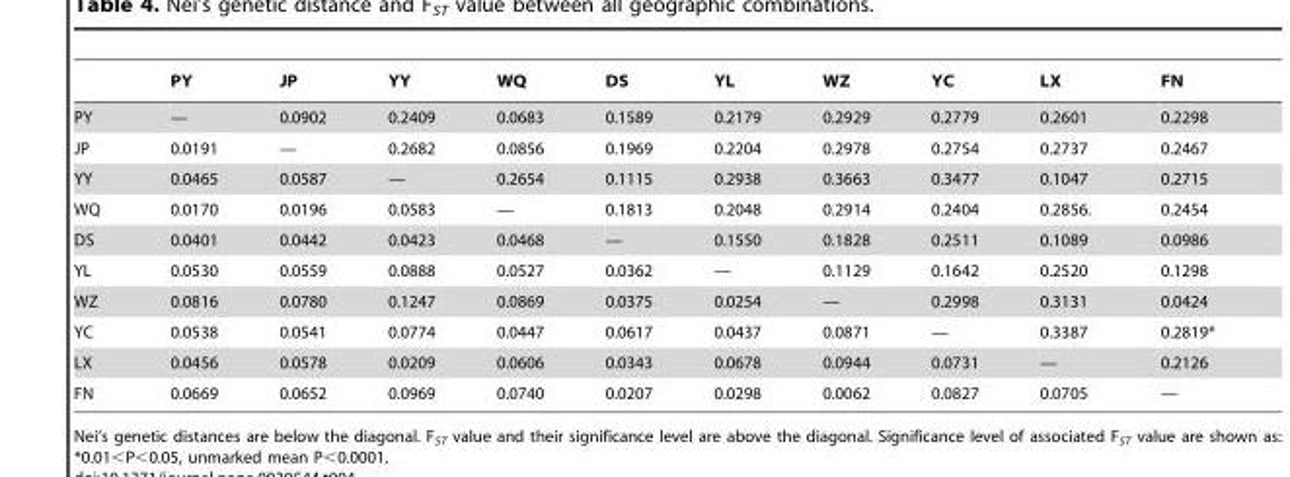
<table><thead><tr><td></td><td>PY</td><td>JP</td><td>YY</td><td>WQ</td><td>DS</td><td>YL</td><td>WZ</td><td>YC</td><td>LX</td><td>FN</td></tr></thead><tbody><tr><td>PY</td><td>—</td><td>0.0902</td><td>0.2409</td><td>0.0683</td><td>0.1589</td><td>0.2179</td><td>0.2929</td><td>0.2779</td><td>0.2601</td><td>0.2298</td></tr><tr><td>JP</td><td>0.0191</td><td>—</td><td>0.2682</td><td>0.0856</td><td>0.1969</td><td>0.2204</td><td>0.2978</td><td>0.2754</td><td>0.2737</td><td>0.2467</td></tr><tr><td>YY</td><td>0.0465</td><td>0.0587</td><td>—</td><td>0.2654</td><td>0.1115</td><td>0.2938</td><td>0.3663</td><td>0.3477</td><td>0.1047</td><td>0.2715</td></tr><tr><td>WQ</td><td>0.0170</td><td>0.0196</td><td>0.0583</td><td>—</td><td>0.1813</td><td>0.2048</td><td>0.2914</td><td>0.2404</td><td>0.2856.</td><td>0.2454</td></tr><tr><td>DS</td><td>0.0401</td><td>0.0442</td><td>0.0423</td><td>0.0468</td><td>—</td><td>0.1550</td><td>0.1828</td><td>0.2511</td><td>0.1089</td><td>0.0986</td></tr><tr><td>YL</td><td>0.0530</td><td>0.0559</td><td>0.0888</td><td>0.0527</td><td>0.0362</td><td>—</td><td>0.1129</td><td>0.1642</td><td>0.2520</td><td>0.1298</td></tr><tr><td>WZ</td><td>0.0816</td><td>0.0780</td><td>0.1247</td><td>0.0869</td><td>0.0375</td><td>0.0254</td><td>—</td><td>0.2998</td><td>0.3131</td><td>0.0424</td></tr><tr><td>YC</td><td>0.0538</td><td>0.0541</td><td>0.0774</td><td>0.0447</td><td>0.0617</td><td>0.0437</td><td>0.0871</td><td>—</td><td>0.3387</td><td>0.2819*</td></tr><tr><td>LX</td><td>0.0456</td><td>0.0578</td><td>0.0209</td><td>0.0606</td><td>0.0343</td><td>0.0678</td><td>0.0944</td><td>0.0731</td><td>—</td><td>0.2126</td></tr><tr><td>FN</td><td>0.0669</td><td>0.0652</td><td>0.0969</td><td>0.0740</td><td>0.0207</td><td>0.0298</td><td>0.0062</td><td>0.0827</td><td>0.0705</td><td>—</td></tr></tbody></table>